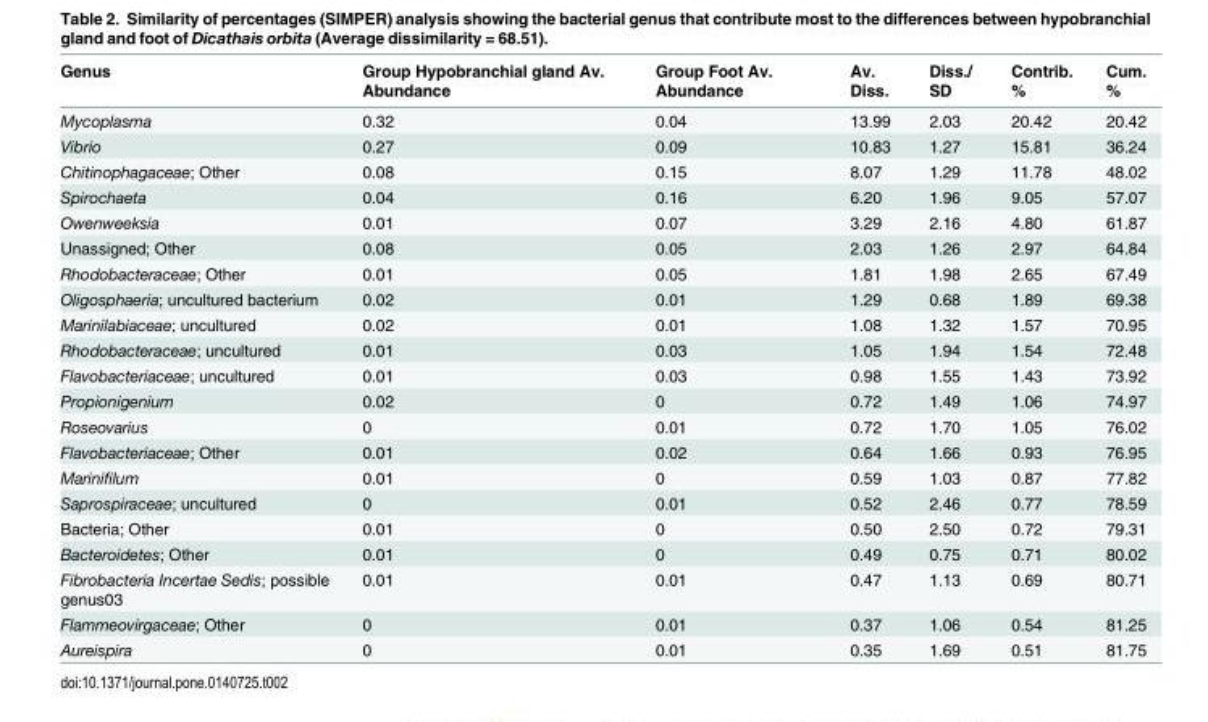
<table><thead><tr><td>Genus</td><td>Group Hypobranchial gland Av. Abundance</td><td>Group Foot Av. Abundance</td><td>Av. Diss.</td><td>Diss./ SD</td><td>Contrib. %</td><td>Cum. %</td></tr></thead><tbody><tr><td>Mycoplasma</td><td>0.32</td><td>0.04</td><td>13.99</td><td>2.03</td><td>20.42</td><td>20.42</td></tr><tr><td>Vibrio</td><td>0.27</td><td>0.09</td><td>10.83</td><td>1.27</td><td>15.81</td><td>36.24</td></tr><tr><td>Chitinophagaceae; Other</td><td>0.08</td><td>0.15</td><td>8.07</td><td>1.29</td><td>11.78</td><td>48.02</td></tr><tr><td>Spirochaeta</td><td>0.04</td><td>0.16</td><td>6.20</td><td>1.96</td><td>9.05</td><td>57.07</td></tr><tr><td>Owenweeksia</td><td>0.01</td><td>0.07</td><td>3.29</td><td>2.16</td><td>4.80</td><td>61.87</td></tr><tr><td>Unassigned; Other</td><td>0.08</td><td>0.05</td><td>2.03</td><td>1.26</td><td>2.97</td><td>64.84</td></tr><tr><td>Rhodobacteraceae; Other</td><td>0.01</td><td>0.05</td><td>1.81</td><td>1.98</td><td>2.65</td><td>67.49</td></tr><tr><td>Oligosphaeria; uncultured bacterium</td><td>0.02</td><td>0.01</td><td>1.29</td><td>0.68</td><td>1.89</td><td>69.38</td></tr><tr><td>Marinilabiaceae; uncultured</td><td>0.02</td><td>0.01</td><td>1.08</td><td>1.32</td><td>1.57</td><td>70.95</td></tr><tr><td>Rhodobacteraceae; uncultured</td><td>0.01</td><td>0.03</td><td>1.05</td><td>1.94</td><td>1.54</td><td>72.48</td></tr><tr><td>Flavobacteriaceae; uncultured</td><td>0.01</td><td>0.03</td><td>0.98</td><td>1.55</td><td>1.43</td><td>73.92</td></tr><tr><td>Propionigenium</td><td>0.02</td><td>0</td><td>0.72</td><td>1.49</td><td>1.06</td><td>74.97</td></tr><tr><td>Roseovarius</td><td>0</td><td>0.01</td><td>0.72</td><td>1.70</td><td>1.05</td><td>76.02</td></tr><tr><td>Flavobacteriaceae; Other</td><td>0.01</td><td>0.02</td><td>0.64</td><td>1.66</td><td>0.93</td><td>76.95</td></tr><tr><td>Marinifilum</td><td>0.01</td><td>0</td><td>0.59</td><td>1.03</td><td>0.87</td><td>77.82</td></tr><tr><td>Saprospiraceae; uncultured</td><td>0</td><td>0.01</td><td>0.52</td><td>2.46</td><td>0.77</td><td>78.59</td></tr><tr><td>Bacteria; Other</td><td>0.01</td><td>0</td><td>0.50</td><td>2.50</td><td>0.72</td><td>79.31</td></tr><tr><td>Bacteroidetes; Other</td><td>0.01</td><td>0</td><td>0.49</td><td>0.75</td><td>0.71</td><td>80.02</td></tr><tr><td>Fibrobacteria Incertae Sedis; possible genus03</td><td>0.01</td><td>0.01</td><td>0.47</td><td>1.13</td><td>0.69</td><td>80.71</td></tr><tr><td>Flammeovirgaceae; Other</td><td>0</td><td>0.01</td><td>0.37</td><td>1.06</td><td>0.54</td><td>81.25</td></tr><tr><td>Aureispira</td><td>0</td><td>0.01</td><td>0.35</td><td>1.69</td><td>0.51</td><td>81.75</td></tr></tbody></table>